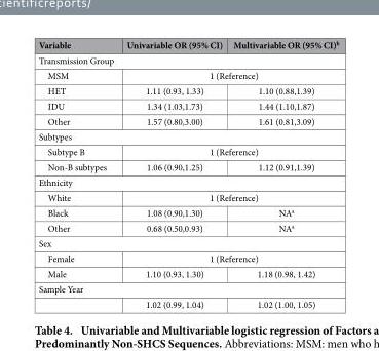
<table><thead><tr><td>Variable</td><td>Univariable OR (95% CI)</td><td>Multivariable OR (95% CI)<sup>b</sup></td></tr></thead><tbody><tr><td colspan="3">Transmission Group</td></tr><tr><td>MSM</td><td colspan="2">1 (Reference)</td></tr><tr><td>HET</td><td>1.11 (0.93, 1.33)</td><td>1.10 (0.88,1.39)</td></tr><tr><td>IDU</td><td>1.34 (1.03,1.73)</td><td>1.44 (1.10,1.87)</td></tr><tr><td>Other</td><td>1.57 (0.80,3.00)</td><td>1.61 (0.81,3.09)</td></tr><tr><td colspan="3">Subtypes</td></tr><tr><td>Subtype B</td><td colspan="2">1 (Reference)</td></tr><tr><td>Non-B subtypes</td><td>1.06 (0.90,1.25)</td><td>1.12 (0.91,1.39)</td></tr><tr><td colspan="3">Ethnicity</td></tr><tr><td>White</td><td colspan="2">1 (Reference)</td></tr><tr><td>Black</td><td>1.08 (0.90,1.30)</td><td>NA<sup>a</sup></td></tr><tr><td>Other</td><td>0.68 (0.50,0.93)</td><td>NA<sup>a</sup></td></tr><tr><td colspan="3">Sex</td></tr><tr><td>Female</td><td colspan="2">1 (Reference)</td></tr><tr><td>Male</td><td>1.10 (0.93, 1.30)</td><td>1.18 (0.98, 1.42)</td></tr><tr><td colspan="3">Sample Year</td></tr><tr><td></td><td>1.02 (0.99, 1.04)</td><td>1.02 (1.00, 1.05)</td></tr></tbody></table>